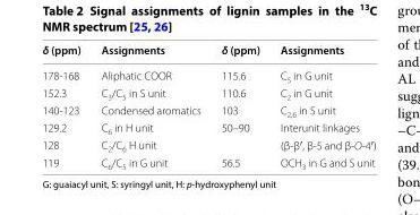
<table><thead><tr><td>δ (ppm)</td><td>Assignments</td><td>δ (ppm)</td><td>Assignments</td></tr></thead><tbody><tr><td>178-168</td><td>Aliphatic COOR</td><td>115.6</td><td>C<sub>5</sub> in G unit</td></tr><tr><td>152.3</td><td>C<sub>3</sub>/C<sub>5</sub> in S unit</td><td>110.6</td><td>C<sub>2</sub> in G unit</td></tr><tr><td>140-123</td><td>Condensed aromatics</td><td>103</td><td>C<sub>2,6</sub> in S unit</td></tr><tr><td>129.2</td><td>C<sub>6</sub> in H unit</td><td>50–90</td><td>Interunit linkages</td></tr><tr><td>128</td><td>C<sub>2</sub>/C<sub>6</sub> H unit</td><td></td><td>(β-β′, β-5 and β-O-4′)</td></tr><tr><td>119</td><td>C<sub>6</sub>/C<sub>5</sub> in G unit</td><td>56.5</td><td>OCH<sub>3</sub> in G and S unit</td></tr></tbody></table>